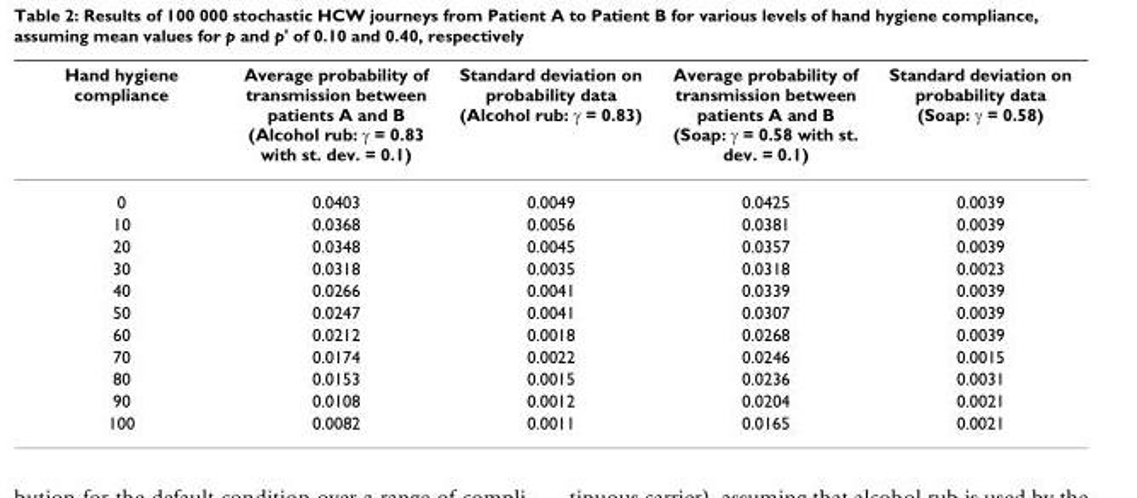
<table><thead><tr><td>Hand hygiene compliance</td><td>Average probability of transmission between patients A and B (Alcohol rub: γ = 0.83 with st. dev. = 0.1)</td><td>Standard deviation on probability data (Alcohol rub: γ = 0.83)</td><td>Average probability of transmission between patients A and B (Soap: γ = 0.58 with st. dev. = 0.1)</td><td>Standard deviation on probability data (Soap: γ = 0.58)</td></tr></thead><tbody><tr><td>0</td><td>0.0403</td><td>0.0049</td><td>0.0425</td><td>0.0039</td></tr><tr><td>10</td><td>0.0368</td><td>0.0056</td><td>0.0381</td><td>0.0039</td></tr><tr><td>20</td><td>0.0348</td><td>0.0045</td><td>0.0357</td><td>0.0039</td></tr><tr><td>30</td><td>0.0318</td><td>0.0035</td><td>0.0318</td><td>0.0023</td></tr><tr><td>40</td><td>0.0266</td><td>0.0041</td><td>0.0339</td><td>0.0039</td></tr><tr><td>50</td><td>0.0247</td><td>0.0041</td><td>0.0307</td><td>0.0039</td></tr><tr><td>60</td><td>0.0212</td><td>0.0018</td><td>0.0268</td><td>0.0039</td></tr><tr><td>70</td><td>0.0174</td><td>0.0022</td><td>0.0246</td><td>0.0015</td></tr><tr><td>80</td><td>0.0153</td><td>0.0015</td><td>0.0236</td><td>0.0031</td></tr><tr><td>90</td><td>0.0108</td><td>0.0012</td><td>0.0204</td><td>0.0021</td></tr><tr><td>100</td><td>0.0082</td><td>0.0011</td><td>0.0165</td><td>0.0021</td></tr></tbody></table>